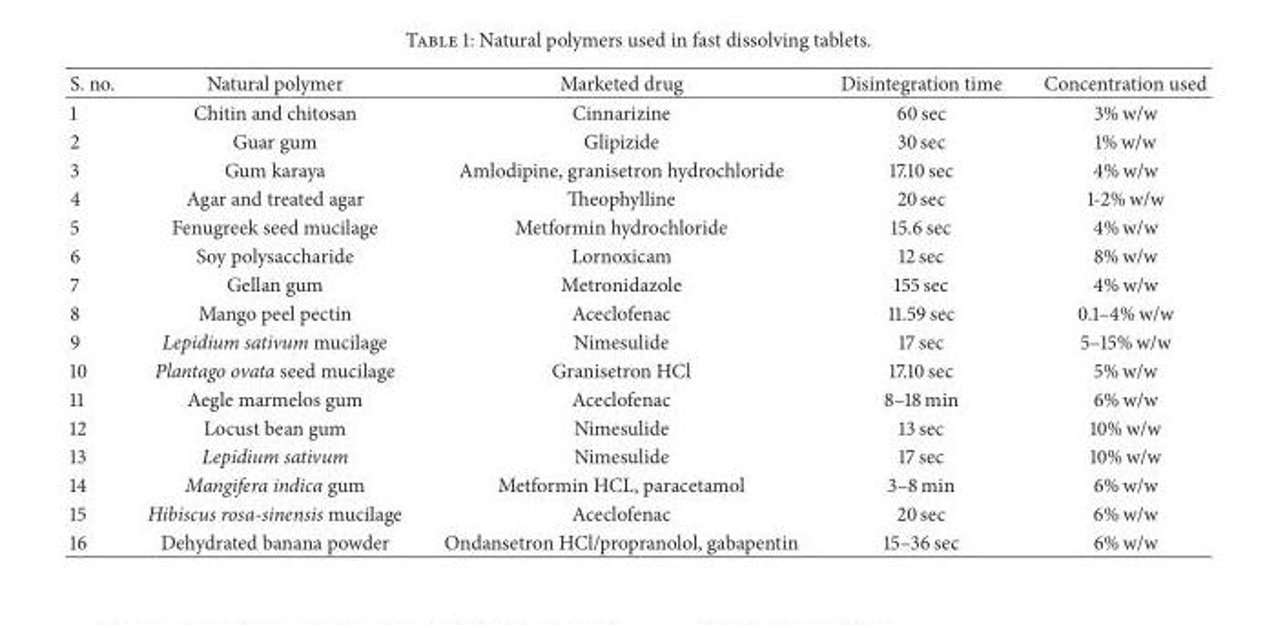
<table><thead><tr><td>S. no.</td><td>Natural polymer</td><td>Marketed drug</td><td>Disintegration time</td><td>Concentration used</td></tr></thead><tbody><tr><td>1</td><td>Chitin and chitosan</td><td>Cinnarizine</td><td>60 sec</td><td>3% w/w</td></tr><tr><td>2</td><td>Guar gum</td><td>Glipizide</td><td>30 sec</td><td>1% w/w</td></tr><tr><td>3</td><td>Gum karaya</td><td>Amlodipine, granisetron hydrochloride</td><td>17.10 sec</td><td>4% w/w</td></tr><tr><td>4</td><td>Agar and treated agar</td><td>Theophylline</td><td>20 sec</td><td>1-2% w/w</td></tr><tr><td>5</td><td>Fenugreek seed mucilage</td><td>Metformin hydrochloride</td><td>15.6 sec</td><td>4% w/w</td></tr><tr><td>6</td><td>Soy polysaccharide</td><td>Lornoxicam</td><td>12 sec</td><td>8% w/w</td></tr><tr><td>7</td><td>Gellan gum</td><td>Metronidazole</td><td>155 sec</td><td>4% w/w</td></tr><tr><td>8</td><td>Mango peel pectin</td><td>Aceclofenac</td><td>11.59 sec</td><td>0.1–4% w/w</td></tr><tr><td>9</td><td>Lepidium sativum mucilage</td><td>Nimesulide</td><td>17 sec</td><td>5–15% w/w</td></tr><tr><td>10</td><td>Plantago ovata seed mucilage</td><td>Granisetron HCl</td><td>17.10 sec</td><td>5% w/w</td></tr><tr><td>11</td><td>Aegle marmelos gum</td><td>Aceclofenac</td><td>8–18 min</td><td>6% w/w</td></tr><tr><td>12</td><td>Locust bean gum</td><td>Nimesulide</td><td>13 sec</td><td>10% w/w</td></tr><tr><td>13</td><td>Lepidium sativum</td><td>Nimesulide</td><td>17 sec</td><td>10% w/w</td></tr><tr><td>14</td><td>Mangifera indica gum</td><td>Metformin HCL, paracetamol</td><td>3–8 min</td><td>6% w/w</td></tr><tr><td>15</td><td>Hibiscus rosa-sinensis mucilage</td><td>Aceclofenac</td><td>20 sec</td><td>6% w/w</td></tr><tr><td>16</td><td>Dehydrated banana powder</td><td>Ondansetron HCl/propranolol, gabapentin</td><td>15–36 sec</td><td>6% w/w</td></tr></tbody></table>